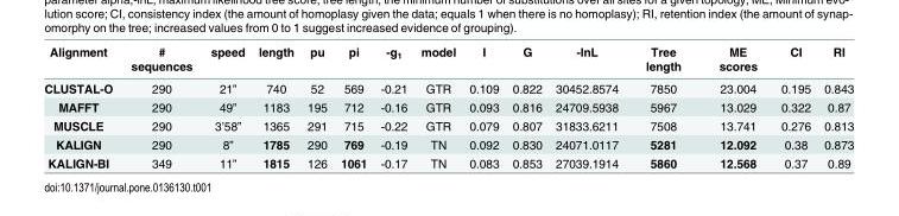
<table><thead><tr><td>Alignment</td><td># sequences</td><td>speed</td><td>length</td><td>pu</td><td>pi</td><td>-g<sub>1</sub></td><td>model</td><td>I</td><td>G</td><td>-lnL</td><td>Tree length</td><td>ME scores</td><td>CI</td><td>RI</td></tr></thead><tbody><tr><td>CLUSTAL-O</td><td>290</td><td>21”</td><td>740</td><td>52</td><td>569</td><td>-0.21</td><td>GTR</td><td>0.109</td><td>0.822</td><td>30452.8574</td><td>7850</td><td>23.004</td><td>0.195</td><td>0.843</td></tr><tr><td>MAFFT</td><td>290</td><td>49”</td><td>1183</td><td>195</td><td>712</td><td>-0.16</td><td>GTR</td><td>0.093</td><td>0.816</td><td>24709.5938</td><td>5967</td><td>13.029</td><td>0.322</td><td>0.87</td></tr><tr><td>MUSCLE</td><td>290</td><td>3’58”</td><td>1365</td><td>291</td><td>715</td><td>-0.22</td><td>GTR</td><td>0.079</td><td>0.807</td><td>31833.6211</td><td>7508</td><td>13.741</td><td>0.276</td><td>0.813</td></tr><tr><td>KALIGN</td><td>290</td><td>8”</td><td>1785</td><td>290</td><td>769</td><td>-0.19</td><td>TN</td><td>0.092</td><td>0.830</td><td>24071.0117</td><td>5281</td><td>12.092</td><td>0.38</td><td>0.873</td></tr><tr><td>KALIGN-BI</td><td>349</td><td>11”</td><td>1815</td><td>126</td><td>1061</td><td>-0.17</td><td>TN</td><td>0.083</td><td>0.853</td><td>27039.1914</td><td>5860</td><td>12.568</td><td>0.37</td><td>0.89</td></tr></tbody></table>